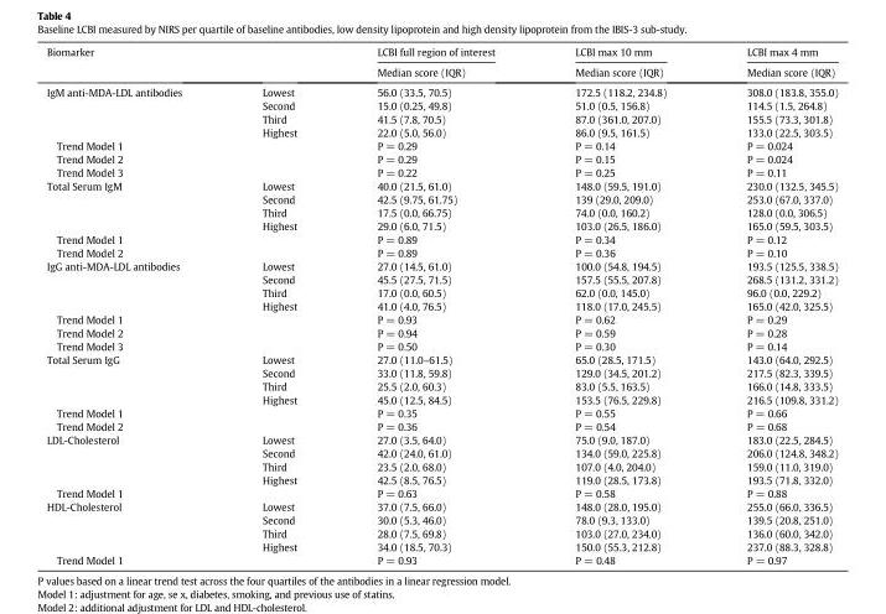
<table><thead><tr><td rowspan="2">Biomarker</td><td rowspan="2"></td><td rowspan="2">LCBI full region of interest Median score (IQR)</td><td rowspan="2">LCBI max 10 mm Median score (IQR)</td><td rowspan="2">LCBI max 4 mm Median score (IQR)</td></tr><tr></tr></thead><tbody><tr><td rowspan="4">IgM anti-MDA-LDL antibodies</td><td>Lowest</td><td>56.0 (33.5, 70.5)</td><td>172.5 (118.2, 234.8)</td><td>308.0 (183.8, 355.0)</td></tr><tr><td>Second</td><td>15.0 (0.25, 49.8)</td><td>51.0 (0.5, 156.8)</td><td>114.5 (1.5, 264.8)</td></tr><tr><td>Third</td><td>41.5 (7.8, 70.5)</td><td>87.0 (361.0, 207.0)</td><td>155.5 (73.3, 301.8)</td></tr><tr><td>Highest</td><td>22.0 (5.0, 56.0)</td><td>86.0 (9.5, 161.5)</td><td>133.0 (22.5, 303.5)</td></tr><tr><td>Trend Model 1</td><td></td><td>P = 0.29</td><td>P = 0.14</td><td>P = 0.024</td></tr><tr><td>Trend Model 2</td><td></td><td>P = 0.29</td><td>P = 0.15</td><td>P = 0.024</td></tr><tr><td>Trend Model 3</td><td></td><td>P = 0.22</td><td>P = 0.25</td><td>P = 0.11</td></tr><tr><td rowspan="4">Total Serum IgM</td><td>Lowest</td><td>40.0 (21.5, 61.0)</td><td>148.0 (59.5, 191.0)</td><td>230.0 (132.5, 345.5)</td></tr><tr><td>Second</td><td>42.5 (9.75, 61.75)</td><td>139 (29.0, 209.0)</td><td>253.0 (67.0, 337.0)</td></tr><tr><td>Third</td><td>17.5 (0.0, 66.75)</td><td>74.0 (0.0, 160.2)</td><td>128.0 (0.0, 306.5)</td></tr><tr><td>Highest</td><td>29.0 (6.0, 71.5)</td><td>103.0 (26.5, 186.0)</td><td>165.0 (59.5, 303.5)</td></tr><tr><td>Trend Model 1</td><td></td><td>P = 0.89</td><td>P = 0.34</td><td>P = 0.12</td></tr><tr><td>Trend Model 2</td><td></td><td>P = 0.89</td><td>P = 0.36</td><td>P = 0.10</td></tr><tr><td rowspan="4">IgG anti-MDA-LDL antibodies</td><td>Lowest</td><td>27.0 (14.5, 61.0)</td><td>100.0 (54.8, 194.5)</td><td>193.5 (125.5, 338.5)</td></tr><tr><td>Second</td><td>45.5 (27.5, 71.5)</td><td>157.5 (55.5, 207.8)</td><td>268.5 (131.2, 331.2)</td></tr><tr><td>Third</td><td>17.0 (0.0, 60.5)</td><td>62.0 (0.0, 145.0)</td><td>96.0 (0.0, 229.2)</td></tr><tr><td>Highest</td><td>41.0 (4.0, 76.5)</td><td>118.0 (17.0, 245.5)</td><td>165.0 (42.0, 325.5)</td></tr><tr><td>Trend Model 1</td><td></td><td>P = 0.93</td><td>P = 0.62</td><td>P = 0.29</td></tr><tr><td>Trend Model 2</td><td></td><td>P = 0.94</td><td>P = 0.59</td><td>P = 0.28</td></tr><tr><td>Trend Model 3</td><td></td><td>P = 0.50</td><td>P = 0.30</td><td>P = 0.14</td></tr><tr><td rowspan="4">Total Serum IgG</td><td>Lowest</td><td>27.0 (11.0–61.5)</td><td>65.0 (28.5, 171.5)</td><td>143.0 (64.0, 292.5)</td></tr><tr><td>Second</td><td>33.0 (11.8, 59.8)</td><td>129.0 (34.5, 201.2)</td><td>217.5 (82.3, 339.5)</td></tr><tr><td>Third</td><td>25.5 (2.0, 60.3)</td><td>83.0 (5.5, 163.5)</td><td>166.0 (14.8, 333.5)</td></tr><tr><td>Highest</td><td>45.0 (12.5, 84.5)</td><td>153.5 (76.5, 229.8)</td><td>216.5 (109.8, 331.2)</td></tr><tr><td>Trend Model 1</td><td></td><td>P = 0.35</td><td>P = 0.55</td><td>P = 0.66</td></tr><tr><td>Trend Model 2</td><td></td><td>P = 0.36</td><td>P = 0.54</td><td>P = 0.68</td></tr><tr><td rowspan="4">LDL-Cholesterol</td><td>Lowest</td><td>27.0 (3.5, 64.0)</td><td>75.0 (9.0, 187.0)</td><td>183.0 (22.5, 284.5)</td></tr><tr><td>Second</td><td>42.0 (24.0, 61.0)</td><td>134.0 (59.0, 225.8)</td><td>206.0 (124.8, 348.2)</td></tr><tr><td>Third</td><td>23.5 (2.0, 68.0)</td><td>107.0 (4.0, 204.0)</td><td>159.0 (11.0, 319.0)</td></tr><tr><td>Highest</td><td>42.5 (8.5, 76.5)</td><td>119.0 (28.5, 173.8)</td><td>193.5 (71.8, 332.0)</td></tr><tr><td>Trend Model 1</td><td></td><td>P = 0.63</td><td>P = 0.58</td><td>P = 0.88</td></tr><tr><td rowspan="4">HDL-Cholesterol</td><td>Lowest</td><td>37.0 (7.5, 66.0)</td><td>148.0 (28.0, 195.0)</td><td>255.0 (66.0, 336.5)</td></tr><tr><td>Second</td><td>30.0 (5.3, 46.0)</td><td>78.0 (9.3, 133.0)</td><td>139.5 (20.8, 251.0)</td></tr><tr><td>Third</td><td>28.0 (7.5, 69.8)</td><td>103.0 (27.0, 234.0)</td><td>136.0 (60.0, 342.0)</td></tr><tr><td>Highest</td><td>34.0 (18.5, 70.3)</td><td>150.0 (55.3, 212.8)</td><td>237.0 (88.3, 328.8)</td></tr><tr><td>Trend Model 1</td><td></td><td>P = 0.93</td><td>P = 0.48</td><td>P = 0.97</td></tr></tbody></table>